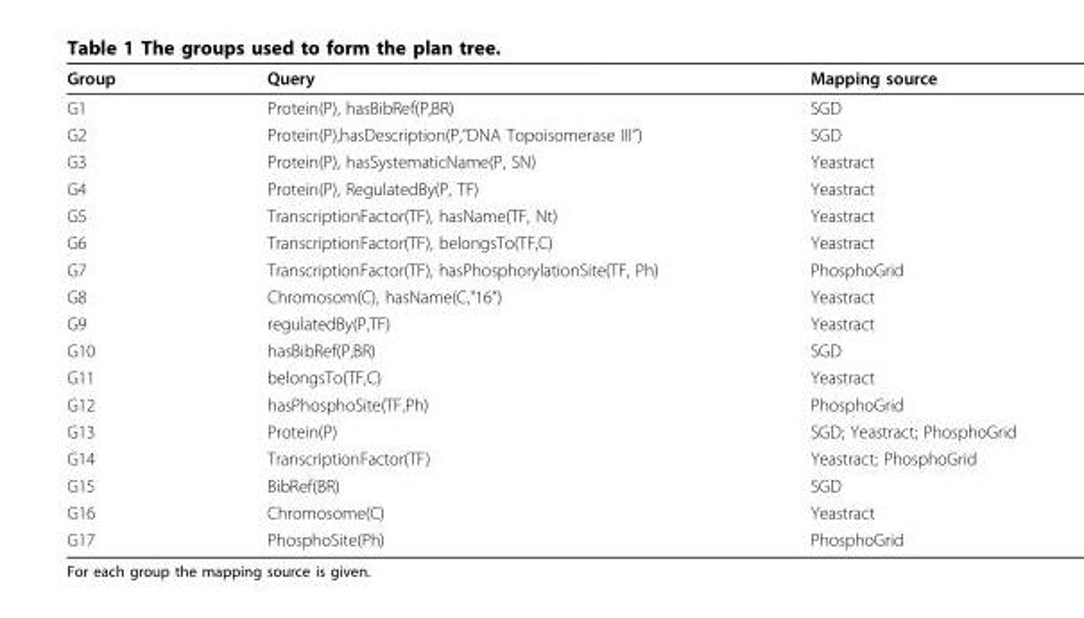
<table><thead><tr><td>Group</td><td>Query</td><td>Mapping source</td></tr></thead><tbody><tr><td>G1</td><td>Protein(P), hasBibRef(P,BR)</td><td>SGD</td></tr><tr><td>G2</td><td>Protein(P),hasDescription(P,&quot;DNA Topoisomerase III”)</td><td>SGD</td></tr><tr><td>G3</td><td>Protein(P), hasSystematicName(P, SN)</td><td>Yeastract</td></tr><tr><td>G4</td><td>Protein(P), RegulatedBy(P, TF)</td><td>Yeastract</td></tr><tr><td>G5</td><td>TranscriptionFactor(TF), hasName(TF, Nt)</td><td>Yeastract</td></tr><tr><td>G6</td><td>TranscriptionFactor(TF), belongsTo(TF,C)</td><td>Yeastract</td></tr><tr><td>G7</td><td>TranscriptionFactor(TF), hasPhosphorylationSite(TF, Ph)</td><td>PhosphoGrid</td></tr><tr><td>G8</td><td>Chromosom(C), hasName(C,&quot;16”)</td><td>Yeastract</td></tr><tr><td>G9</td><td>regulatedBy(P,TF)</td><td>Yeastract</td></tr><tr><td>G10</td><td>hasBibRef(P,BR)</td><td>SGD</td></tr><tr><td>G11</td><td>belongsTo(TF,C)</td><td>Yeastract</td></tr><tr><td>G12</td><td>hasPhosphoSite(TF,Ph)</td><td>PhosphoGrid</td></tr><tr><td>G13</td><td>Protein(P)</td><td>SGD; Yeastract; PhosphoGrid</td></tr><tr><td>G14</td><td>TranscriptionFactor(TF)</td><td>Yeastract; PhosphoGrid</td></tr><tr><td>G15</td><td>BibRef(BR)</td><td>SGD</td></tr><tr><td>G16</td><td>Chromosome(C)</td><td>Yeastract</td></tr><tr><td>G17</td><td>PhosphoSite(Ph)</td><td>PhosphoGrid</td></tr></tbody></table>